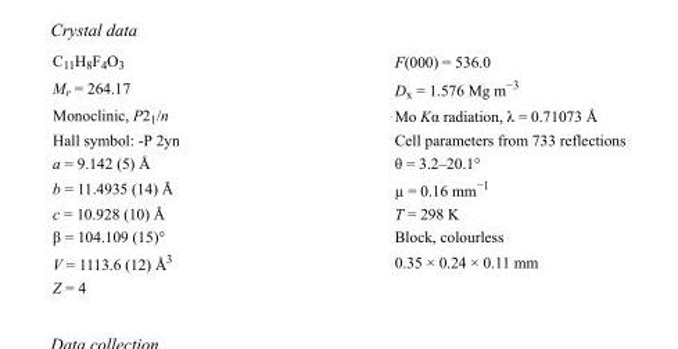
<table><tbody><tr><td>C<sub>11</sub>H<sub>8</sub>F<sub>4</sub>O<sub>3</sub></td><td>F(000) = 536.0</td></tr><tr><td>M<sub>r</sub> = 264.17</td><td>D<sub>x</sub> = 1.576 Mg m<sup>−3</sup></td></tr><tr><td>Monoclinic, P2<sub>1</sub>/n</td><td>Mo Kα radiation, λ = 0.71073 Å</td></tr><tr><td>Hall symbol: -P 2yn</td><td>Cell parameters from 733 reflections</td></tr><tr><td>a = 9.142 (5) Å</td><td>θ = 3.2–20.1°</td></tr><tr><td>b = 11.4935 (14) Å</td><td>µ = 0.16 mm<sup>−1</sup></td></tr><tr><td>c = 10.928 (10) Å</td><td>T = 298 K</td></tr><tr><td>β = 104.109 (15)°</td><td>Block, colourless</td></tr><tr><td>V = 1113.6 (12) Å<sup>3</sup></td><td>0.35 × 0.24 × 0.11 mm</td></tr><tr><td>Z = 4</td><td></td></tr></tbody></table>